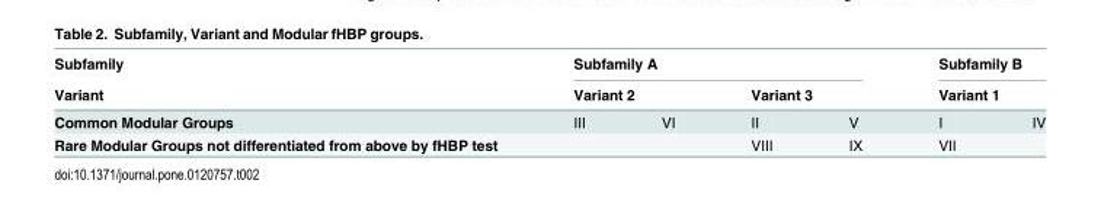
<table><thead><tr><td rowspan="3">Subfamily Variant Common Modular Groups</td><td colspan="4">Subfamily A</td><td rowspan="2" colspan="2">Subfamily B Variant 1</td></tr><tr><td colspan="2">Variant 2</td><td colspan="2">Variant 3</td></tr><tr><td>III</td><td>VI</td><td>II</td><td>V</td><td>I</td><td>IV</td></tr></thead><tbody><tr><td>Rare Modular Groups not differentiated from above by fHBP test</td><td colspan="2"></td><td>VIII</td><td>IX</td><td>VII</td><td></td></tr></tbody></table>